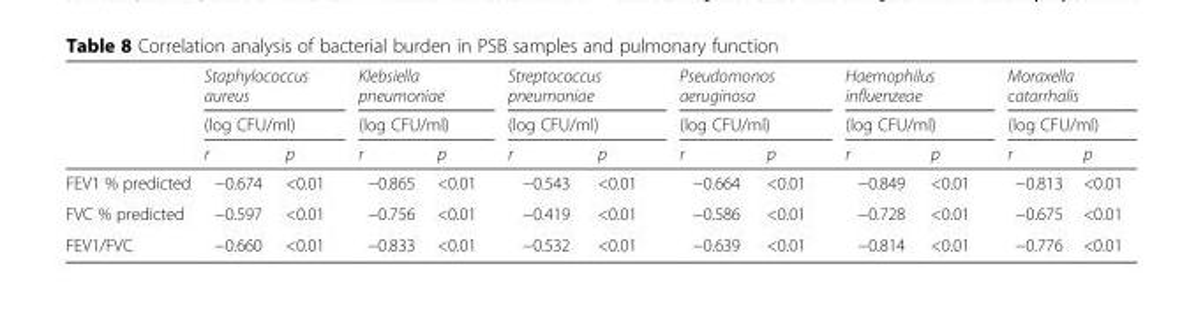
<table><thead><tr><td rowspan="3"></td><td rowspan="2" colspan="2">Staphylococcus aureus (log CFU/ml)</td><td rowspan="2" colspan="2">Klebsiella pneumoniae (log CFU/ml)</td><td rowspan="2" colspan="2">Streptococcus pneumoniae (log CFU/ml)</td><td rowspan="2" colspan="2">Pseudomonos aeruginosa (log CFU/ml)</td><td rowspan="2" colspan="2">Haemophilus influenzeae (log CFU/ml)</td><td rowspan="2" colspan="2">Moraxella catarrhalis (log CFU/ml)</td></tr><tr></tr><tr><td>r</td><td>p</td><td>r</td><td>p</td><td>r</td><td>p</td><td>r</td><td>p</td><td>r</td><td>p</td><td>r</td><td>p</td></tr></thead><tbody><tr><td>FEV1 % predicted</td><td>−0.674</td><td>&lt;0.01</td><td>−0.865</td><td>&lt;0.01</td><td>−0.543</td><td>&lt;0.01</td><td>−0.664</td><td>&lt;0.01</td><td>−0.849</td><td>&lt;0.01</td><td>−0.813</td><td>&lt;0.01</td></tr><tr><td>FVC % predicted</td><td>−0.597</td><td>&lt;0.01</td><td>−0.756</td><td>&lt;0.01</td><td>−0.419</td><td>&lt;0.01</td><td>−0.586</td><td>&lt;0.01</td><td>−0.728</td><td>&lt;0.01</td><td>−0.675</td><td>&lt;0.01</td></tr><tr><td>FEV1/FVC</td><td>−0.660</td><td>&lt;0.01</td><td>−0.833</td><td>&lt;0.01</td><td>−0.532</td><td>&lt;0.01</td><td>−0.639</td><td>&lt;0.01</td><td>−0.814</td><td>&lt;0.01</td><td>−0.776</td><td>&lt;0.01</td></tr></tbody></table>